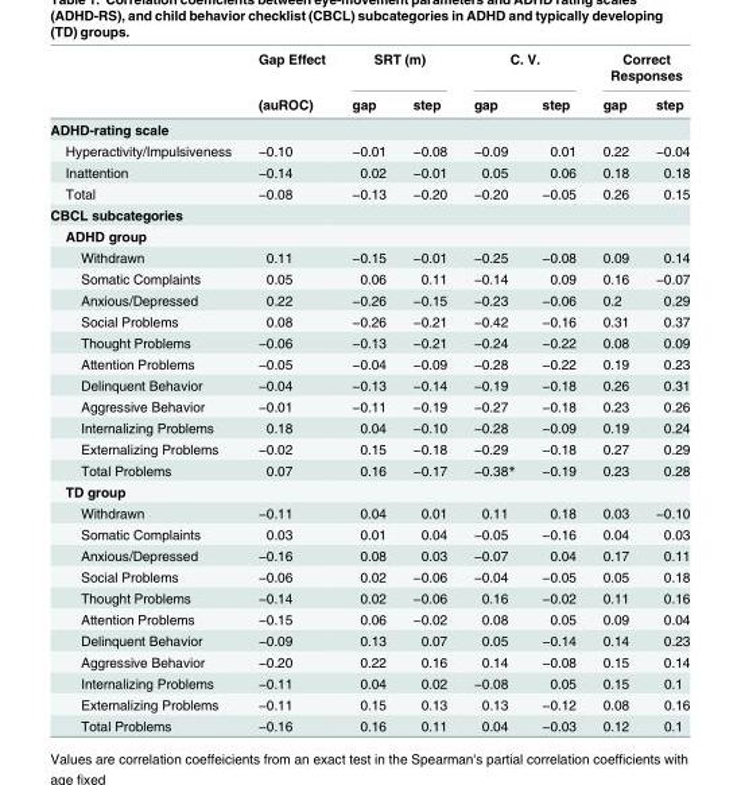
<table><thead><tr><td rowspan="2"></td><td rowspan="2">Gap Effect (auROC)</td><td colspan="2">SRT (m)</td><td colspan="2">C. V.</td><td colspan="2">Correct Responses</td></tr><tr><td>gap</td><td>step</td><td>gap</td><td>step</td><td>gap</td><td>step</td></tr></thead><tbody><tr><td colspan="8">ADHD-rating scale</td></tr><tr><td>Hyperactivity/Impulsiveness</td><td>−0.10</td><td>−0.01</td><td>−0.08</td><td>−0.09</td><td>0.01</td><td>0.22</td><td>−0.04</td></tr><tr><td>Inattention</td><td>−0.14</td><td>0.02</td><td>−0.01</td><td>0.05</td><td>0.06</td><td>0.18</td><td>0.18</td></tr><tr><td>Total</td><td>−0.08</td><td>−0.13</td><td>−0.20</td><td>−0.20</td><td>−0.05</td><td>0.26</td><td>0.15</td></tr><tr><td colspan="8">CBCL subcategories</td></tr><tr><td colspan="8">ADHD group</td></tr><tr><td>Withdrawn</td><td>0.11</td><td>−0.15</td><td>−0.01</td><td>−0.25</td><td>−0.08</td><td>0.09</td><td>0.14</td></tr><tr><td>Somatic Complaints</td><td>0.05</td><td>0.06</td><td>0.11</td><td>−0.14</td><td>0.09</td><td>0.16</td><td>−0.07</td></tr><tr><td>Anxious/Depressed</td><td>0.22</td><td>−0.26</td><td>−0.15</td><td>−0.23</td><td>−0.06</td><td>0.2</td><td>0.29</td></tr><tr><td>Social Problems</td><td>0.08</td><td>−0.26</td><td>−0.21</td><td>−0.42</td><td>−0.16</td><td>0.31</td><td>0.37</td></tr><tr><td>Thought Problems</td><td>−0.06</td><td>−0.13</td><td>−0.21</td><td>−0.24</td><td>−0.22</td><td>0.08</td><td>0.09</td></tr><tr><td>Attention Problems</td><td>−0.05</td><td>−0.04</td><td>−0.09</td><td>−0.28</td><td>−0.22</td><td>0.19</td><td>0.23</td></tr><tr><td>Delinquent Behavior</td><td>−0.04</td><td>−0.13</td><td>−0.14</td><td>−0.19</td><td>−0.18</td><td>0.26</td><td>0.31</td></tr><tr><td>Aggressive Behavior</td><td>−0.01</td><td>−0.11</td><td>−0.19</td><td>−0.27</td><td>−0.18</td><td>0.23</td><td>0.26</td></tr><tr><td>Internalizing Problems</td><td>0.18</td><td>0.04</td><td>−0.10</td><td>−0.28</td><td>−0.09</td><td>0.19</td><td>0.24</td></tr><tr><td>Externalizing Problems</td><td>−0.02</td><td>0.15</td><td>−0.18</td><td>−0.29</td><td>−0.18</td><td>0.27</td><td>0.29</td></tr><tr><td>Total Problems</td><td>0.07</td><td>0.16</td><td>−0.17</td><td>−0.38*</td><td>−0.19</td><td>0.23</td><td>0.28</td></tr><tr><td colspan="8">TD group</td></tr><tr><td>Withdrawn</td><td>−0.11</td><td>0.04</td><td>0.01</td><td>0.11</td><td>0.18</td><td>0.03</td><td>−0.10</td></tr><tr><td>Somatic Complaints</td><td>0.03</td><td>0.01</td><td>0.04</td><td>−0.05</td><td>−0.16</td><td>0.04</td><td>0.03</td></tr><tr><td>Anxious/Depressed</td><td>−0.16</td><td>0.08</td><td>0.03</td><td>−0.07</td><td>0.04</td><td>0.17</td><td>0.11</td></tr><tr><td>Social Problems</td><td>−0.06</td><td>0.02</td><td>−0.06</td><td>−0.04</td><td>−0.05</td><td>0.05</td><td>0.18</td></tr><tr><td>Thought Problems</td><td>−0.14</td><td>0.02</td><td>−0.06</td><td>0.16</td><td>−0.02</td><td>0.11</td><td>0.16</td></tr><tr><td>Attention Problems</td><td>−0.15</td><td>0.06</td><td>−0.02</td><td>0.08</td><td>0.05</td><td>0.09</td><td>0.04</td></tr><tr><td>Delinquent Behavior</td><td>−0.09</td><td>0.13</td><td>0.07</td><td>0.05</td><td>−0.14</td><td>0.14</td><td>0.23</td></tr><tr><td>Aggressive Behavior</td><td>−0.20</td><td>0.22</td><td>0.16</td><td>0.14</td><td>−0.08</td><td>0.15</td><td>0.14</td></tr><tr><td>Internalizing Problems</td><td>−0.11</td><td>0.04</td><td>0.02</td><td>−0.08</td><td>0.05</td><td>0.15</td><td>0.1</td></tr><tr><td>Externalizing Problems</td><td>−0.11</td><td>0.15</td><td>0.13</td><td>0.13</td><td>−0.12</td><td>0.08</td><td>0.16</td></tr><tr><td>Total Problems</td><td>−0.16</td><td>0.16</td><td>0.11</td><td>0.04</td><td>−0.03</td><td>0.12</td><td>0.1</td></tr></tbody></table>